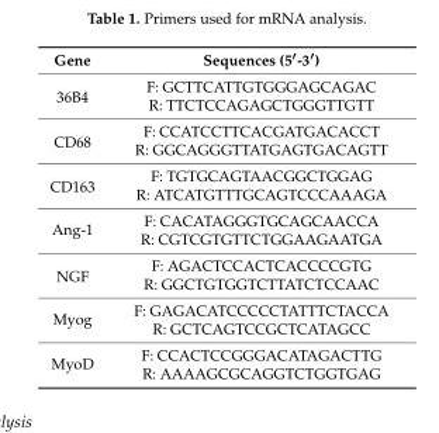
<table><thead><tr><td>Gene</td><td>Sequences (5′-3′)</td></tr></thead><tbody><tr><td rowspan="2">36B4</td><td>F: GCTTCATTGTGGGAGCAGAC</td></tr><tr><td>R: TTCTCCAGAGCTGGGTTGTT</td></tr><tr><td rowspan="2">CD68</td><td>F: CCATCCTTCACGATGACACCT</td></tr><tr><td>R: GGCAGGGTTATGAGTGACAGTT</td></tr><tr><td rowspan="2">CD163</td><td>F: TGTGCAGTAACGGCTGGAG</td></tr><tr><td>R: ATCATGTTTGCAGTCCCAAAGA</td></tr><tr><td rowspan="2">Ang-1</td><td>F: CACATAGGGTGCAGCAACCA</td></tr><tr><td>R: CGTCGTGTTCTGGAAGAATGA</td></tr><tr><td rowspan="2">NGF</td><td>F: AGACTCCACTCACCCCGTG</td></tr><tr><td>R: GGCTGTGGTCTTATCTCCAAC</td></tr><tr><td rowspan="2">Myog</td><td>F: GAGACATCCCCCTATTTCTACCA</td></tr><tr><td>R: GCTCAGTCCGCTCATAGCC</td></tr><tr><td rowspan="2">MyoD</td><td>F: CCACTCCGGGACATAGACTTG</td></tr><tr><td>R: AAAAGCGCAGGTCTGGTGAG</td></tr></tbody></table>